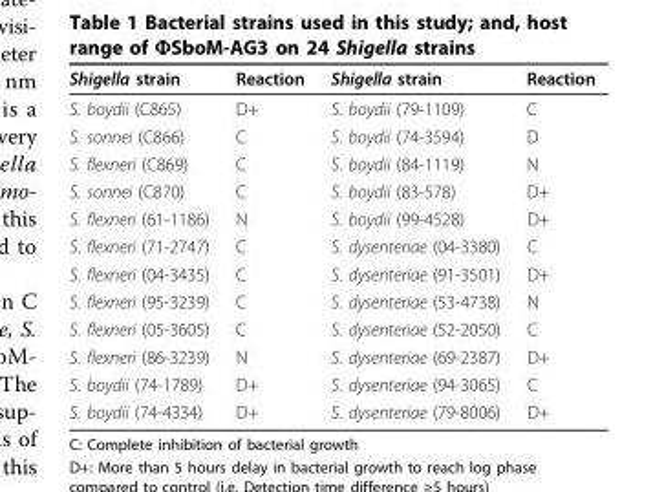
<table><thead><tr><td>Shigella strain</td><td>Reaction</td><td>Shigella strain</td><td>Reaction</td></tr></thead><tbody><tr><td>S. boydii (C865)</td><td>D+</td><td>S. boydii (79-1109)</td><td>C</td></tr><tr><td>S. sonnei (C866)</td><td>C</td><td>S. boydii (74-3594)</td><td>D</td></tr><tr><td>S. flexneri (C869)</td><td>C</td><td>S. boydii (84-1119)</td><td>N</td></tr><tr><td>S. sonnei (C870)</td><td>C</td><td>S. boydii (83-578)</td><td>D+</td></tr><tr><td>S. flexneri (61-1186)</td><td>N</td><td>S. boydii (99-4528)</td><td>D+</td></tr><tr><td>S. flexneri (71-2747)</td><td>C</td><td>S. dysenteriae (04-3380)</td><td>C</td></tr><tr><td>S. flexneri (04-3435)</td><td>C</td><td>S. dysenteriae (91-3501)</td><td>D+</td></tr><tr><td>S. flexneri (95-3239)</td><td>C</td><td>S. dysenteriae (53-4738)</td><td>N</td></tr><tr><td>S. flexneri (05-3605)</td><td>C</td><td>S. dysenteriae (52-2050)</td><td>C</td></tr><tr><td>S. flexneri (86-3239)</td><td>N</td><td>S. dysenteriae (69-2387)</td><td>D+</td></tr><tr><td>S. boydii (74-1789)</td><td>D+</td><td>S. dysenteriae (94-3065)</td><td>C</td></tr><tr><td>S. boydii (74-4334)</td><td>D+</td><td>S. dysenteriae (79-8006)</td><td>D+</td></tr></tbody></table>